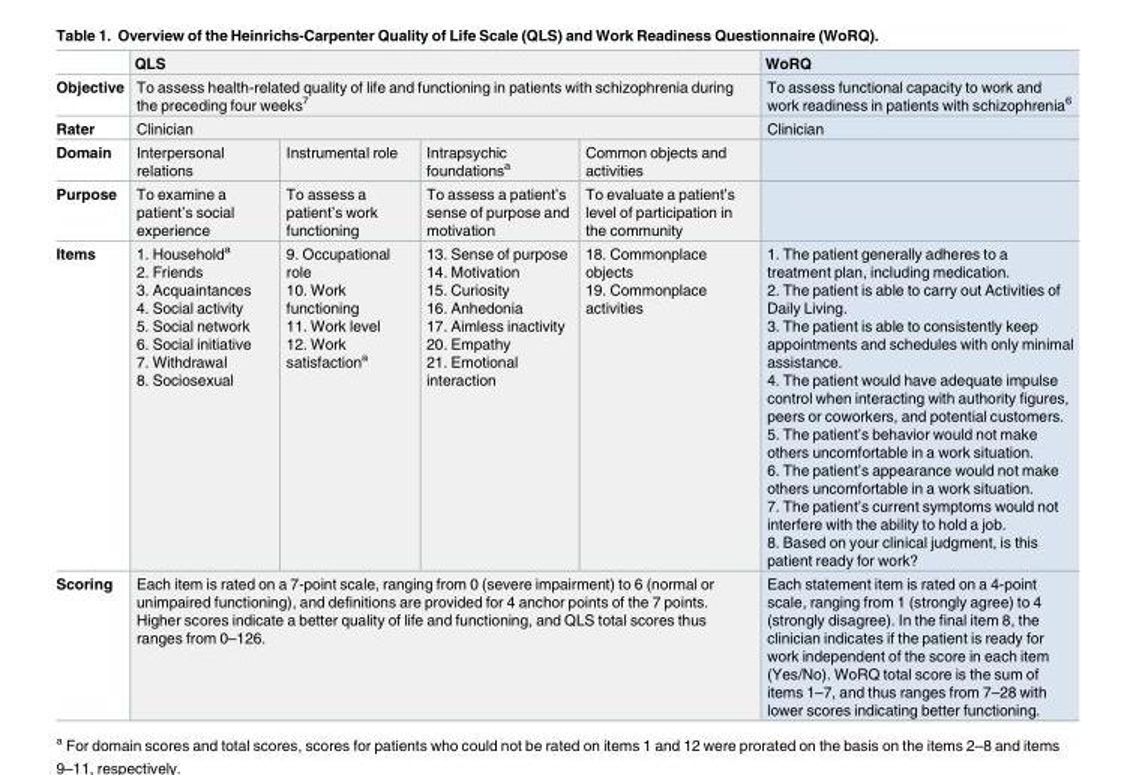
<table><thead><tr><td rowspan="4">Objective Rater Domain</td><td rowspan="3" colspan="4">QLS To assess health-related quality of life and functioning in patients with schizophrenia during the preceding four weeks<sup>7</sup> Clinician</td><td rowspan="4">WoRQ To assess functional capacity to work and work readiness in patients with schizophrenia<sup>6</sup> Clinician</td></tr><tr></tr><tr></tr><tr><td>Interpersonal relations</td><td>Instrumental role</td><td>Intrapsychic foundations<sup>a</sup></td><td>Common objects and activities</td></tr></thead><tbody><tr><td>Purpose</td><td>To examine a patient’s social experience</td><td>To assess a patient’s work functioning</td><td>To assess a patient’s sense of purpose and motivation</td><td>To evaluate a patient’s level of participation in the community</td><td></td></tr><tr><td>Items</td><td>1. Household<sup>a</sup> 2. Friends 3. Acquaintances 4. Social activity 5. Social network 6. Social initiative 7. Withdrawal 8. Sociosexual</td><td>9. Occupational role 10. Work functioning 11. Work level 12. Work satisfaction<sup>a</sup></td><td>13. Sense of purpose 14. Motivation 15. Curiosity 16. Anhedonia 17. Aimless inactivity 20. Empathy 21. Emotional interaction</td><td>18. Commonplace objects 19. Commonplace activities</td><td>1. The patient generally adheres to a treatment plan, including medication. 2. The patient is able to carry out Activities of Daily Living. 3. The patient is able to consistently keep appointments and schedules with only minimal assistance. 4. The patient would have adequate impulse control when interacting with authority figures, peers or coworkers, and potential customers. 5. The patient’s behavior would not make others uncomfortable in a work situation. 6. The patient’s appearance would not make others uncomfortable in a work situation. 7. The patient’s current symptoms would not interfere with the ability to hold a job. 8. Based on your clinical judgment, is this patient ready for work?</td></tr><tr><td>Scoring</td><td colspan="4">Each item is rated on a 7-point scale, ranging from 0 (severe impairment) to 6 (normal or unimpaired functioning), and definitions are provided for 4 anchor points of the 7 points. Higher scores indicate a better quality of life and functioning, and QLS total scores thus ranges from 0–126.</td><td>Each statement item is rated on a 4-point scale, ranging from 1 (strongly agree) to 4 (strongly disagree). In the final item 8, the clinician indicates if the patient is ready for work independent of the score in each item (Yes/No). WoRQ total score is the sum of items 1–7, and thus ranges from 7–28 with lower scores indicating better functioning.</td></tr></tbody></table>